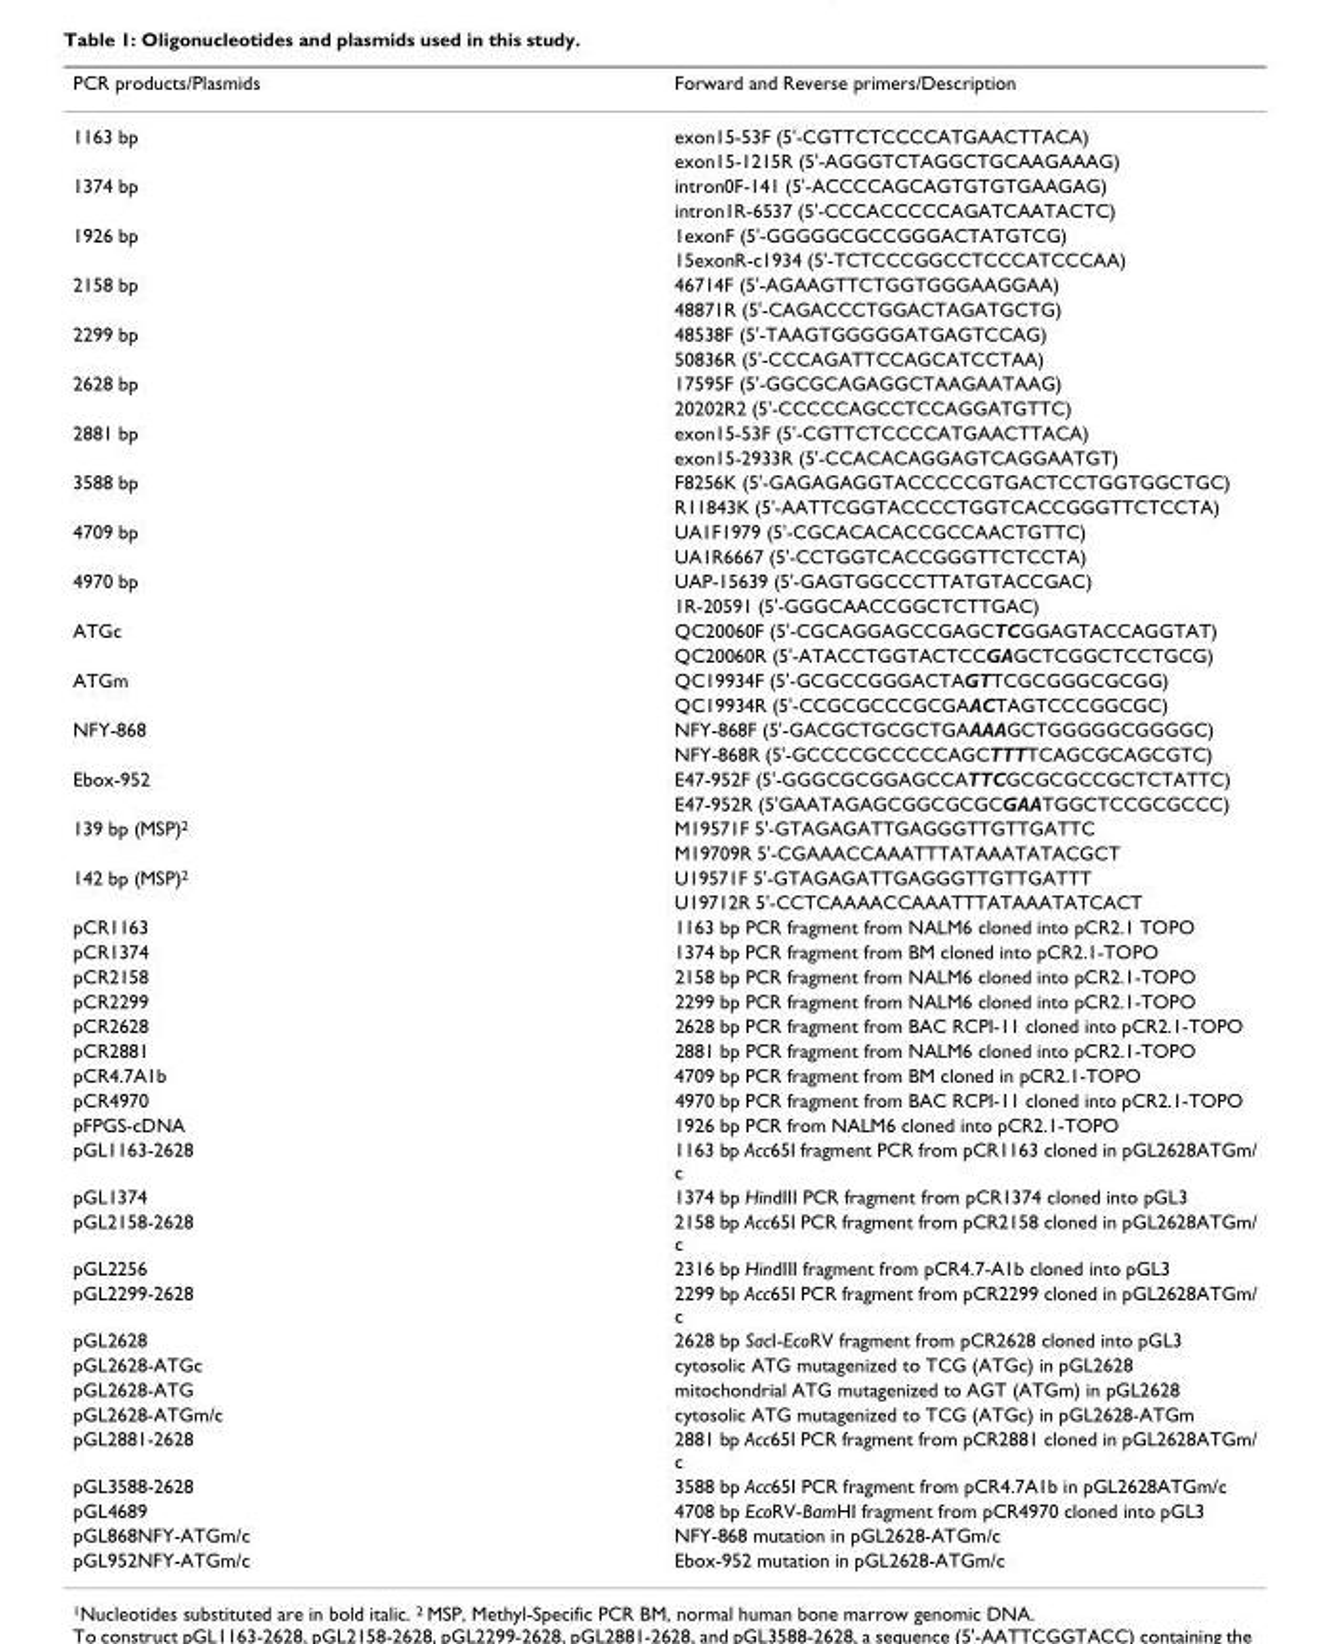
<table><thead><tr><td>PCR products/Plasmids</td><td>Forward and Reverse primers/Description</td></tr></thead><tbody><tr><td rowspan="2">1163 bp</td><td>exon15-53F (5&#x27;-CGTTCTCCCCATGAACTTACA)</td></tr><tr><td>exon15-1215R (5&#x27;-AGGGTCTAGGCTGCAAGAAAG)</td></tr><tr><td rowspan="2">1374 bp</td><td>intron0F-141 (5&#x27;-ACCCCAGCAGTGTGTGAAGAG)</td></tr><tr><td>intron1R-6537 (5&#x27;-CCCACCCCCAGATCAATACTC)</td></tr><tr><td rowspan="2">1926 bp</td><td>1exonF (5&#x27;-GGGGGCGCCGGGACTATGTCG)</td></tr><tr><td>15exonR-c1934 (5&#x27;-TCTCCCGGCCTCCCATCCCAA)</td></tr><tr><td rowspan="2">2158 bp</td><td>46714F (5&#x27;-AGAAGTTCTGGTGGGAAGGAA)</td></tr><tr><td>48871R (5&#x27;-CAGACCCTGGACTAGATGCTG)</td></tr><tr><td rowspan="2">2299 bp</td><td>48538F (5&#x27;-TAAGTGGGGGATGAGTCCAG)</td></tr><tr><td>50836R (5&#x27;-CCCAGATTCCAGCATCCTAA)</td></tr><tr><td rowspan="2">2628 bp</td><td>17595F (5&#x27;-GGCGCAGAGGCTAAGAATAAG)</td></tr><tr><td>20202R2 (5&#x27;-CCCCCAGCCTCCAGGATGTTC)</td></tr><tr><td rowspan="2">2881 bp</td><td>exon15-53F (5&#x27;-CGTTCTCCCCATGAACTTACA)</td></tr><tr><td>exon15-2933R (5&#x27;-CCACACAGGAGTCAGGAATGT)</td></tr><tr><td rowspan="2">3588 bp</td><td>F8256K (5&#x27;-GAGAGAGGTACCCCCGTGACTCCTGGTGGCTGC)</td></tr><tr><td>R11843K (5&#x27;-AATTCGGTACCCCTGGTCACCGGGTTCTCCTA)</td></tr><tr><td rowspan="2">4709 bp</td><td>UA1F1979 (5&#x27;-CGCACACACCGCCAACTGTTC)</td></tr><tr><td>UA1R6667 (5&#x27;-CCTGGTCACCGGGTTCTCCTA)</td></tr><tr><td rowspan="2">4970 bp</td><td>UAP-15639 (5&#x27;-GAGTGGCCCTTATGTACCGAC)</td></tr><tr><td>1R-20591 (5&#x27;-GGGCAACCGGCTCTTGAC)</td></tr><tr><td rowspan="2">ATGc</td><td>QC20060F (5&#x27;-CGCAGGAGCCGAGCTCGGAGTACCAGGTAT)</td></tr><tr><td>QC20060R (5&#x27;-ATACCTGGTACTCCGAGCTCGGCTCCTGCG)</td></tr><tr><td rowspan="2">ATGm</td><td>QC19934F (5&#x27;-GCGCCGGGACTAGTTCGCGGGCGCGG)</td></tr><tr><td>QC19934R (5&#x27;-CCGCGCCCGCGAACTAGTCCCGGCGC)</td></tr><tr><td rowspan="2">NFY-868</td><td>NFY-868F (5&#x27;-GACGCTGCGCTGAAAAGCTGGGGGCGGGGC)</td></tr><tr><td>NFY-868R (5&#x27;-GCCCCGCCCCCAGCTTTTCAGCGCAGCGTC)</td></tr><tr><td rowspan="2">Ebox-952</td><td>E47-952F (5&#x27;-GGGCGCGGAGCCATTCGCGCGCCGCTCTATTC)</td></tr><tr><td>E47-952R (5&#x27;GAATAGAGCGGCGCGCGAATGGCTCCGCGCCC)</td></tr><tr><td rowspan="2">139 bp (MSP)2</td><td>M19571F 5&#x27;-GTAGAGATTGAGGGTTGTTGATTC</td></tr><tr><td>M19709R 5&#x27;-CGAAACCAAATTTATAAATATACGCT</td></tr><tr><td rowspan="2">142 bp (MSP)2</td><td>U19571F 5&#x27;-GTAGAGATTGAGGGTTGTTGATTT</td></tr><tr><td>U19712R 5&#x27;-CCTCAAAACCAAATTTATAAATATCACT</td></tr><tr><td>pCR1163</td><td>1163 bp PCR fragment from NALM6 cloned into pCR2.1 TOPO</td></tr><tr><td>pCR1374</td><td>1374 bp PCR fragment from BM cloned into pCR2.1-TOPO</td></tr><tr><td>pCR2158</td><td>2158 bp PCR fragment from NALM6 cloned into pCR2.1-TOPO</td></tr><tr><td>pCR2299</td><td>2299 bp PCR fragment from NALM6 cloned into pCR2.1-TOPO</td></tr><tr><td>pCR2628</td><td>2628 bp PCR fragment from BAC RCPI-11 cloned into pCR2.1-TOPO</td></tr><tr><td>pCR2881</td><td>2881 bp PCR fragment from NALM6 cloned into pCR2.1-TOPO</td></tr><tr><td>pCR4.7A1b</td><td>4709 bp PCR fragment from BM cloned in pCR2.1-TOPO</td></tr><tr><td>pCR4970</td><td>4970 bp PCR fragment from BAC RCPI-11 cloned into pCR2.1-TOPO</td></tr><tr><td>pFPGS-cDNA</td><td>1926 bp PCR from NALM6 cloned into pCR2.1-TOPO</td></tr><tr><td>pGL1163-2628</td><td>1163 bp Acc65I fragment PCR from pCR1163 cloned in pGL2628ATGm/ c</td></tr><tr><td>pGL1374</td><td>1374 bp HindIII PCR fragment from pCR1374 cloned into pGL3</td></tr><tr><td>pGL2158-2628</td><td>2158 bp Acc65I PCR fragment from pCR2158 cloned in pGL2628ATGm/ c</td></tr><tr><td>pGL2256</td><td>2316 bp HindIII fragment from pCR4.7-A1b cloned into pGL3</td></tr><tr><td>pGL2299-2628</td><td>2299 bp Acc65I PCR fragment from pCR2299 cloned in pGL2628ATGm/ c</td></tr><tr><td>pGL2628</td><td>2628 bp SacI-EcoRV fragment from pCR2628 cloned into pGL3</td></tr><tr><td>pGL2628-ATGc</td><td>cytosolic ATG mutagenized to TCG (ATGc) in pGL2628</td></tr><tr><td>pGL2628-ATG</td><td>mitochondrial ATG mutagenized to AGT (ATGm) in pGL2628</td></tr><tr><td>pGL2628-ATGm/c</td><td>cytosolic ATG mutagenized to TCG (ATGc) in pGL2628-ATGm</td></tr><tr><td>pGL2881-2628</td><td>2881 bp Acc65I PCR fragment from pCR2881 cloned in pGL2628ATGm/ c</td></tr><tr><td>pGL3588-2628</td><td>3588 bp Acc65I PCR fragment from pCR4.7A1b in pGL2628ATGm/c</td></tr><tr><td>pGL4689</td><td>4708 bp EcoRV-BamHI fragment from pCR4970 cloned into pGL3</td></tr><tr><td>pGL868NFY-ATGm/c</td><td>NFY-868 mutation in pGL2628-ATGm/c</td></tr><tr><td>pGL952NFY-ATGm/c</td><td>Ebox-952 mutation in pGL2628-ATGm/c</td></tr></tbody></table>